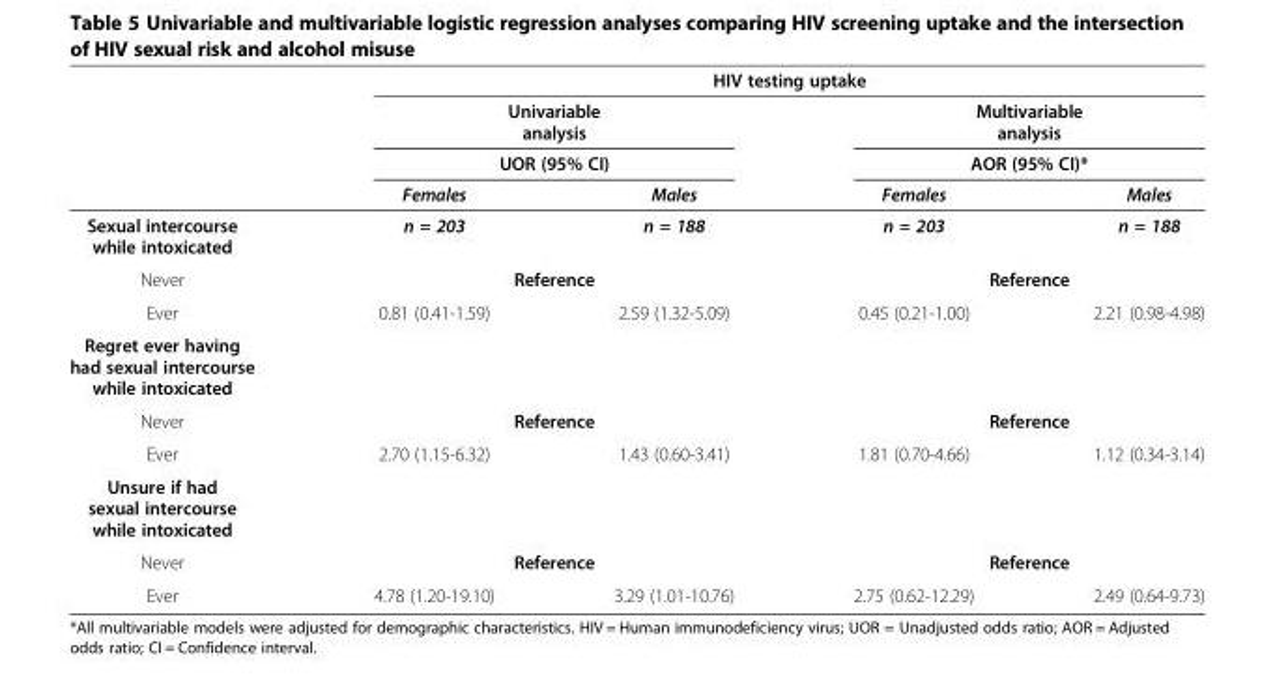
<table><thead><tr><td rowspan="4"></td><td colspan="4">HIV testing uptake</td></tr><tr><td rowspan="2" colspan="2">Univariable analysis UOR (95% CI)</td><td rowspan="2" colspan="2">Multivariable analysis AOR (95% CI)*</td></tr><tr></tr><tr><td>Females</td><td>Males</td><td>Females</td><td>Males</td></tr></thead><tbody><tr><td>Sexual intercourse while intoxicated</td><td>n = 203</td><td>n = 188</td><td>n = 203</td><td>n = 188</td></tr><tr><td>Never</td><td colspan="2">Reference</td><td colspan="2">Reference</td></tr><tr><td>Ever</td><td>0.81 (0.41-1.59)</td><td>2.59 (1.32-5.09)</td><td>0.45 (0.21-1.00)</td><td>2.21 (0.98-4.98)</td></tr><tr><td colspan="5">Regret ever having had sexual intercourse while intoxicated</td></tr><tr><td>Never</td><td colspan="2">Reference</td><td colspan="2">Reference</td></tr><tr><td>Ever</td><td>2.70 (1.15-6.32)</td><td>1.43 (0.60-3.41)</td><td>1.81 (0.70-4.66)</td><td>1.12 (0.34-3.14)</td></tr><tr><td colspan="5">Unsure if had sexual intercourse while intoxicated</td></tr><tr><td>Never</td><td colspan="2">Reference</td><td colspan="2">Reference</td></tr><tr><td>Ever</td><td>4.78 (1.20-19.10)</td><td>3.29 (1.01-10.76)</td><td>2.75 (0.62-12.29)</td><td>2.49 (0.64-9.73)</td></tr></tbody></table>